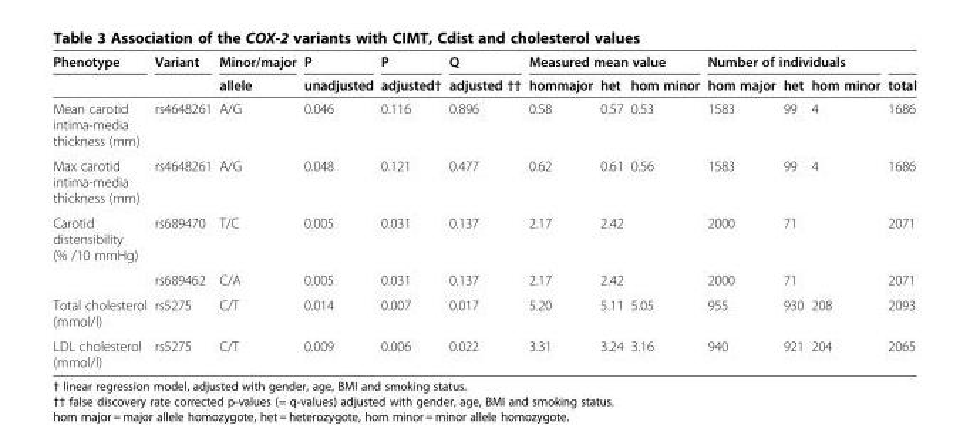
<table><thead><tr><td rowspan="2">Phenotype</td><td rowspan="2">Variant</td><td rowspan="2">Minor/major allele</td><td rowspan="2">P unadjusted</td><td rowspan="2">P adjusted†</td><td rowspan="2">Q adjusted ††</td><td colspan="3">Measured mean value</td><td colspan="3">Number of individuals</td><td rowspan="2">total</td></tr><tr><td>hommajor</td><td>het</td><td>hom minor</td><td>hom major</td><td>het</td><td>hom minor</td></tr></thead><tbody><tr><td>Mean carotid intima-media thickness (mm)</td><td>rs4648261</td><td>A/G</td><td>0.046</td><td>0.116</td><td>0.896</td><td>0.58</td><td>0.57</td><td>0.53</td><td>1583</td><td>99</td><td>4</td><td>1686</td></tr><tr><td>Max carotid intima-media thickness (mm)</td><td>rs4648261</td><td>A/G</td><td>0.048</td><td>0.121</td><td>0.477</td><td>0.62</td><td>0.61</td><td>0.56</td><td>1583</td><td>99</td><td>4</td><td>1686</td></tr><tr><td rowspan="2">Carotid distensibility (% /10 mmHg)</td><td>rs689470</td><td>T/C</td><td>0.005</td><td>0.031</td><td>0.137</td><td>2.17</td><td>2.42</td><td></td><td>2000</td><td>71</td><td></td><td>2071</td></tr><tr><td>rs689462</td><td>C/A</td><td>0.005</td><td>0.031</td><td>0.137</td><td>2.17</td><td>2.42</td><td></td><td>2000</td><td>71</td><td></td><td>2071</td></tr><tr><td>Total cholesterol (mmol/l)</td><td>rs5275</td><td>C/T</td><td>0.014</td><td>0.007</td><td>0.017</td><td>5.20</td><td>5.11</td><td>5.05</td><td>955</td><td>930</td><td>208</td><td>2093</td></tr><tr><td>LDL cholesterol (mmol/l)</td><td>rs5275</td><td>C/T</td><td>0.009</td><td>0.006</td><td>0.022</td><td>3.31</td><td>3.24</td><td>3.16</td><td>940</td><td>921</td><td>204</td><td>2065</td></tr></tbody></table>